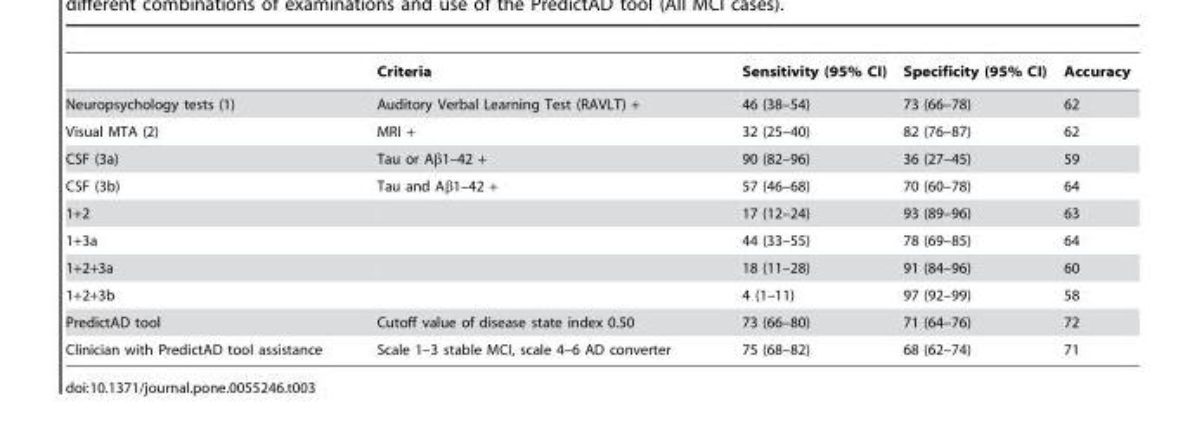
<table><thead><tr><td></td><td>Criteria</td><td>Sensitivity (95% CI)</td><td>Specificity (95% CI)</td><td>Accuracy</td></tr></thead><tbody><tr><td>Neuropsychology tests (1)</td><td>Auditory Verbal Learning Test (RAVLT) +</td><td>46 (38–54)</td><td>73 (66–78)</td><td>62</td></tr><tr><td>Visual MTA (2)</td><td>MRI +</td><td>32 (25–40)</td><td>82 (76–87)</td><td>62</td></tr><tr><td>CSF (3a)</td><td>Tau or Aβ1–42 +</td><td>90 (82–96)</td><td>36 (27–45)</td><td>59</td></tr><tr><td>CSF (3b)</td><td>Tau and Aβ1–42 +</td><td>57 (46–68)</td><td>70 (60–78)</td><td>64</td></tr><tr><td>1+2</td><td></td><td>17 (12–24)</td><td>93 (89–96)</td><td>63</td></tr><tr><td>1+3a</td><td></td><td>44 (33–55)</td><td>78 (69–85)</td><td>64</td></tr><tr><td>1+2+3a</td><td></td><td>18 (11–28)</td><td>91 (84–96)</td><td>60</td></tr><tr><td>1+2+3b</td><td></td><td>4 (1–11)</td><td>97 (92–99)</td><td>58</td></tr><tr><td>PredictAD tool</td><td>Cutoff value of disease state index 0.50</td><td>73 (66–80)</td><td>71 (64–76)</td><td>72</td></tr><tr><td>Clinician with PredictAD tool assistance</td><td>Scale 1–3 stable MCI, scale 4–6 AD converter</td><td>75 (68–82)</td><td>68 (62–74)</td><td>71</td></tr></tbody></table>